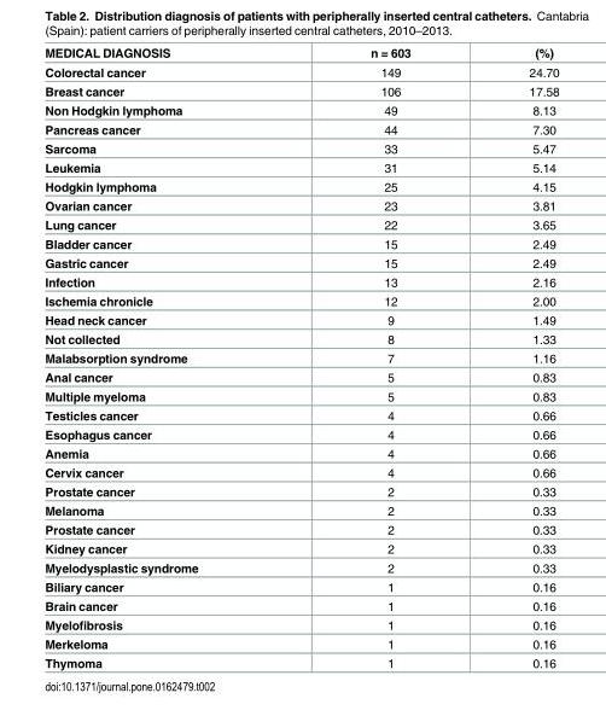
<table><thead><tr><td>MEDICAL DIAGNOSIS</td><td>n = 603</td><td>(%)</td></tr></thead><tbody><tr><td>Colorectal cancer</td><td>149</td><td>24.70</td></tr><tr><td>Breast cancer</td><td>106</td><td>17.58</td></tr><tr><td>Non Hodgkin lymphoma</td><td>49</td><td>8.13</td></tr><tr><td>Pancreas cancer</td><td>44</td><td>7.30</td></tr><tr><td>Sarcoma</td><td>33</td><td>5.47</td></tr><tr><td>Leukemia</td><td>31</td><td>5.14</td></tr><tr><td>Hodgkin lymphoma</td><td>25</td><td>4.15</td></tr><tr><td>Ovarian cancer</td><td>23</td><td>3.81</td></tr><tr><td>Lung cancer</td><td>22</td><td>3.65</td></tr><tr><td>Bladder cancer</td><td>15</td><td>2.49</td></tr><tr><td>Gastric cancer</td><td>15</td><td>2.49</td></tr><tr><td>Infection</td><td>13</td><td>2.16</td></tr><tr><td>Ischemia chronicle</td><td>12</td><td>2.00</td></tr><tr><td>Head neck cancer</td><td>9</td><td>1.49</td></tr><tr><td>Not collected</td><td>8</td><td>1.33</td></tr><tr><td>Malabsorption syndrome</td><td>7</td><td>1.16</td></tr><tr><td>Anal cancer</td><td>5</td><td>0.83</td></tr><tr><td>Multiple myeloma</td><td>5</td><td>0.83</td></tr><tr><td>Testicles cancer</td><td>4</td><td>0.66</td></tr><tr><td>Esophagus cancer</td><td>4</td><td>0.66</td></tr><tr><td>Anemia</td><td>4</td><td>0.66</td></tr><tr><td>Cervix cancer</td><td>4</td><td>0.66</td></tr><tr><td>Prostate cancer</td><td>2</td><td>0.33</td></tr><tr><td>Melanoma</td><td>2</td><td>0.33</td></tr><tr><td>Prostate cancer</td><td>2</td><td>0.33</td></tr><tr><td>Kidney cancer</td><td>2</td><td>0.33</td></tr><tr><td>Myelodysplastic syndrome</td><td>2</td><td>0.33</td></tr><tr><td>Biliary cancer</td><td>1</td><td>0.16</td></tr><tr><td>Brain cancer</td><td>1</td><td>0.16</td></tr><tr><td>Myelofibrosis</td><td>1</td><td>0.16</td></tr><tr><td>Merkeloma</td><td>1</td><td>0.16</td></tr><tr><td>Thymoma</td><td>1</td><td>0.16</td></tr></tbody></table>